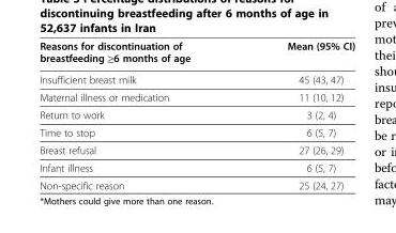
<table><thead><tr><td>Reasons for discontinuation of breastfeeding ≥6 months of age</td><td>Mean (95% CI)</td></tr></thead><tbody><tr><td>Insufficient breast milk</td><td>45 (43, 47)</td></tr><tr><td>Maternal illness or medication</td><td>11 (10, 12)</td></tr><tr><td>Return to work</td><td>3 (2, 4)</td></tr><tr><td>Time to stop</td><td>6 (5, 7)</td></tr><tr><td>Breast refusal</td><td>27 (26, 29)</td></tr><tr><td>Infant illness</td><td>6 (5, 7)</td></tr><tr><td>Non-specific reason</td><td>25 (24, 27)</td></tr></tbody></table>